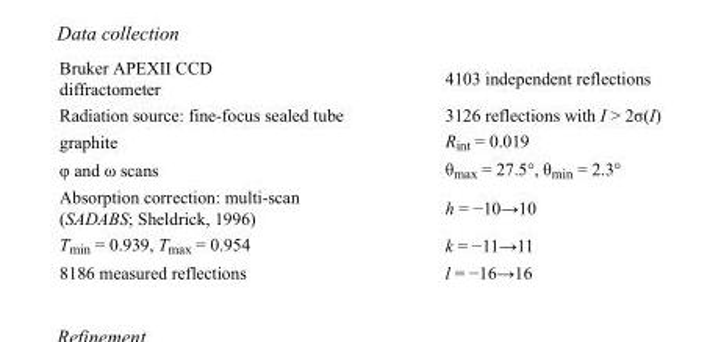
<table><tbody><tr><td>Bruker APEXII CCD diffractometer</td><td>4103 independent reflections</td></tr><tr><td>Radiation source: fine-focus sealed tube</td><td>3126 reflections with I &gt; 2σ(I)</td></tr><tr><td>graphite</td><td>R<sub>int</sub> = 0.019</td></tr><tr><td>φ and ω scans</td><td>θ<sub>max</sub> = 27.5°, θ<sub>min</sub> = 2.3°</td></tr><tr><td>Absorption correction: multi-scan (SADABS; Sheldrick, 1996)</td><td>h = −10→10</td></tr><tr><td>T<sub>min</sub> = 0.939, T<sub>max</sub> = 0.954</td><td>k = −11→11</td></tr><tr><td>8186 measured reflections</td><td>l = −16→16</td></tr></tbody></table>